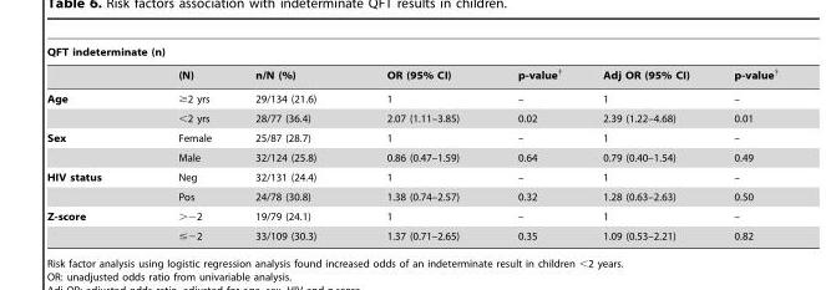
<table><thead><tr><td colspan="7">QFT indeterminate (n)</td></tr><tr><td></td><td>(N)</td><td>n/N (%)</td><td>OR (95% CI)</td><td>p-value†</td><td>Adj OR (95% CI)</td><td>p-value†</td></tr></thead><tbody><tr><td rowspan="2">Age</td><td>≥2 yrs</td><td>29/134 (21.6)</td><td>1</td><td>–</td><td>1</td><td>–</td></tr><tr><td>&lt;2 yrs</td><td>28/77 (36.4)</td><td>2.07 (1.11–3.85)</td><td>0.02</td><td>2.39 (1.22–4.68)</td><td>0.01</td></tr><tr><td rowspan="2">Sex</td><td>Female</td><td>25/87 (28.7)</td><td>1</td><td>–</td><td>1</td><td>–</td></tr><tr><td>Male</td><td>32/124 (25.8)</td><td>0.86 (0.47–1.59)</td><td>0.64</td><td>0.79 (0.40–1.54)</td><td>0.49</td></tr><tr><td rowspan="2">HIV status</td><td>Neg</td><td>32/131 (24.4)</td><td>1</td><td>–</td><td>1</td><td>–</td></tr><tr><td>Pos</td><td>24/78 (30.8)</td><td>1.38 (0.74–2.57)</td><td>0.32</td><td>1.28 (0.63–2.63)</td><td>0.50</td></tr><tr><td rowspan="2">Z-score</td><td>&gt;−2</td><td>19/79 (24.1)</td><td>1</td><td>–</td><td>1</td><td>–</td></tr><tr><td>≤−2</td><td>33/109 (30.3)</td><td>1.37 (0.71–2.65)</td><td>0.35</td><td>1.09 (0.53–2.21)</td><td>0.82</td></tr></tbody></table>